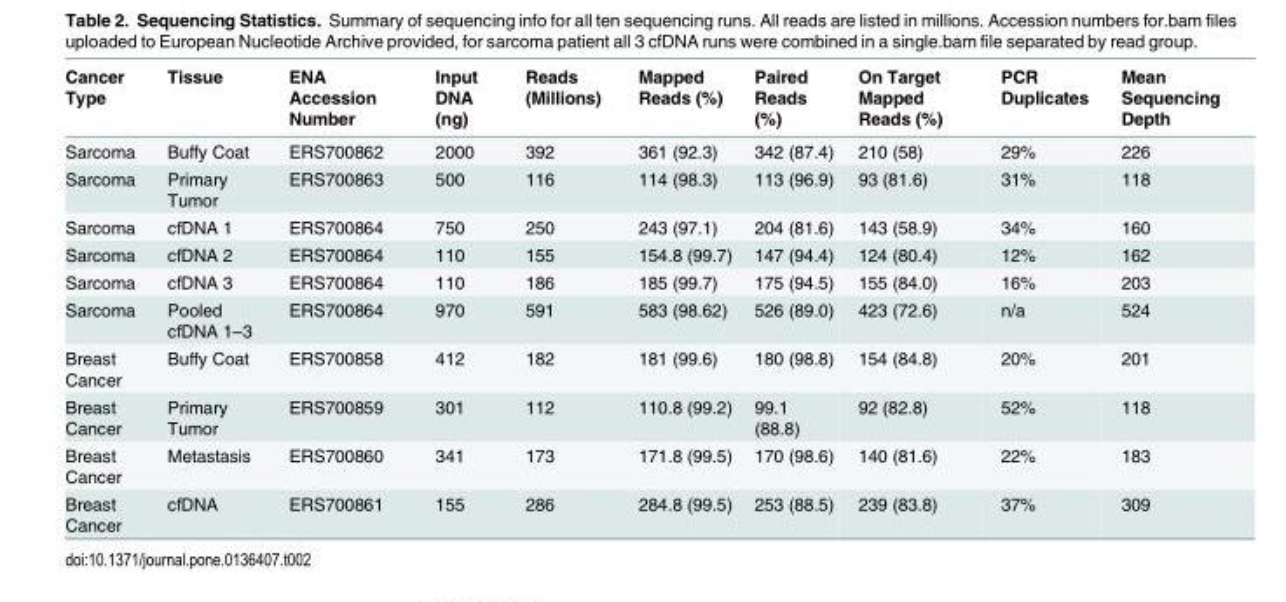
<table><thead><tr><td>Cancer Type</td><td>Tissue</td><td>ENA Accession Number</td><td>Input DNA (ng)</td><td>Reads (Millions)</td><td>Mapped Reads (%)</td><td>Paired Reads (%)</td><td>On Target Mapped Reads (%)</td><td>PCR Duplicates</td><td>Mean Sequencing Depth</td></tr></thead><tbody><tr><td>Sarcoma</td><td>Buffy Coat</td><td>ERS700862</td><td>2000</td><td>392</td><td>361 (92.3)</td><td>342 (87.4)</td><td>210 (58)</td><td>29%</td><td>226</td></tr><tr><td>Sarcoma</td><td>Primary Tumor</td><td>ERS700863</td><td>500</td><td>116</td><td>114 (98.3)</td><td>113 (96.9)</td><td>93 (81.6)</td><td>31%</td><td>118</td></tr><tr><td>Sarcoma</td><td>cfDNA 1</td><td>ERS700864</td><td>750</td><td>250</td><td>243 (97.1)</td><td>204 (81.6)</td><td>143 (58.9)</td><td>34%</td><td>160</td></tr><tr><td>Sarcoma</td><td>cfDNA 2</td><td>ERS700864</td><td>110</td><td>155</td><td>154.8 (99.7)</td><td>147 (94.4)</td><td>124 (80.4)</td><td>12%</td><td>162</td></tr><tr><td>Sarcoma</td><td>cfDNA 3</td><td>ERS700864</td><td>110</td><td>186</td><td>185 (99.7)</td><td>175 (94.5)</td><td>155 (84.0)</td><td>16%</td><td>203</td></tr><tr><td>Sarcoma</td><td>Pooled cfDNA 1–3</td><td>ERS700864</td><td>970</td><td>591</td><td>583 (98.62)</td><td>526 (89.0)</td><td>423 (72.6)</td><td>n/a</td><td>524</td></tr><tr><td>Breast Cancer</td><td>Buffy Coat</td><td>ERS700858</td><td>412</td><td>182</td><td>181 (99.6)</td><td>180 (98.8)</td><td>154 (84.8)</td><td>20%</td><td>201</td></tr><tr><td>Breast Cancer</td><td>Primary Tumor</td><td>ERS700859</td><td>301</td><td>112</td><td>110.8 (99.2)</td><td>99.1 (88.8)</td><td>92 (82.8)</td><td>52%</td><td>118</td></tr><tr><td>Breast Cancer</td><td>Metastasis</td><td>ERS700860</td><td>341</td><td>173</td><td>171.8 (99.5)</td><td>170 (98.6)</td><td>140 (81.6)</td><td>22%</td><td>183</td></tr><tr><td>Breast Cancer</td><td>cfDNA</td><td>ERS700861</td><td>155</td><td>286</td><td>284.8 (99.5)</td><td>253 (88.5)</td><td>239 (83.8)</td><td>37%</td><td>309</td></tr></tbody></table>